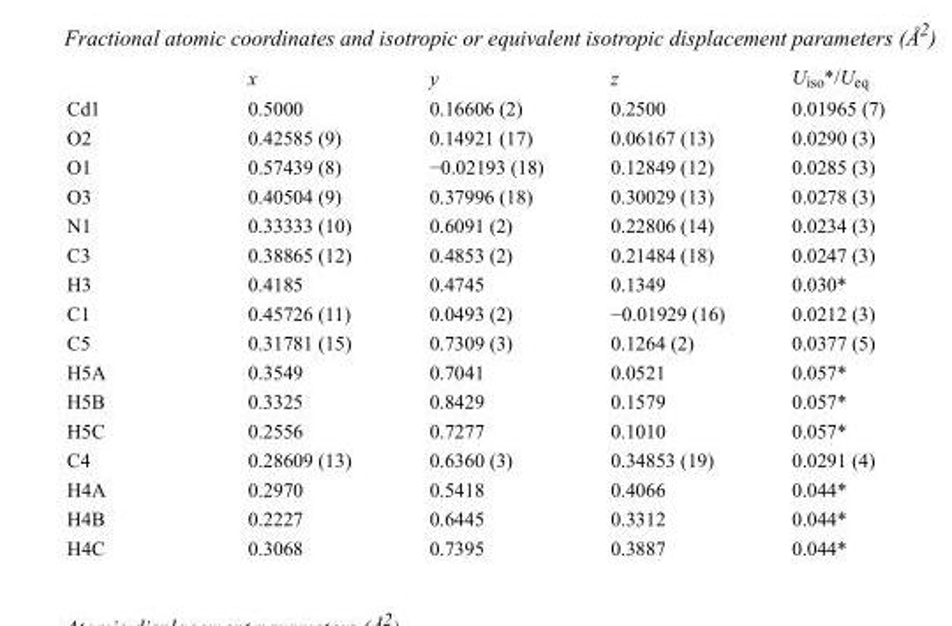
<table><thead><tr><td></td><td>x</td><td>y</td><td>z</td><td>U<sub>iso</sub>*/U<sub>eq</sub></td></tr></thead><tbody><tr><td>Cd1</td><td>0.5000</td><td>0.16606 (2)</td><td>0.2500</td><td>0.01965 (7)</td></tr><tr><td>O2</td><td>0.42585 (9)</td><td>0.14921 (17)</td><td>0.06167 (13)</td><td>0.0290 (3)</td></tr><tr><td>O1</td><td>0.57439 (8)</td><td>−0.02193 (18)</td><td>0.12849 (12)</td><td>0.0285 (3)</td></tr><tr><td>O3</td><td>0.40504 (9)</td><td>0.37996 (18)</td><td>0.30029 (13)</td><td>0.0278 (3)</td></tr><tr><td>N1</td><td>0.33333 (10)</td><td>0.6091 (2)</td><td>0.22806 (14)</td><td>0.0234 (3)</td></tr><tr><td>C3</td><td>0.38865 (12)</td><td>0.4853 (2)</td><td>0.21484 (18)</td><td>0.0247 (3)</td></tr><tr><td>H3</td><td>0.4185</td><td>0.4745</td><td>0.1349</td><td>0.030*</td></tr><tr><td>C1</td><td>0.45726 (11)</td><td>0.0493 (2)</td><td>−0.01929 (16)</td><td>0.0212 (3)</td></tr><tr><td>C5</td><td>0.31781 (15)</td><td>0.7309 (3)</td><td>0.1264 (2)</td><td>0.0377 (5)</td></tr><tr><td>H5A</td><td>0.3549</td><td>0.7041</td><td>0.0521</td><td>0.057*</td></tr><tr><td>H5B</td><td>0.3325</td><td>0.8429</td><td>0.1579</td><td>0.057*</td></tr><tr><td>H5C</td><td>0.2556</td><td>0.7277</td><td>0.1010</td><td>0.057*</td></tr><tr><td>C4</td><td>0.28609 (13)</td><td>0.6360 (3)</td><td>0.34853 (19)</td><td>0.0291 (4)</td></tr><tr><td>H4A</td><td>0.2970</td><td>0.5418</td><td>0.4066</td><td>0.044*</td></tr><tr><td>H4B</td><td>0.2227</td><td>0.6445</td><td>0.3312</td><td>0.044*</td></tr><tr><td>H4C</td><td>0.3068</td><td>0.7395</td><td>0.3887</td><td>0.044*</td></tr></tbody></table>